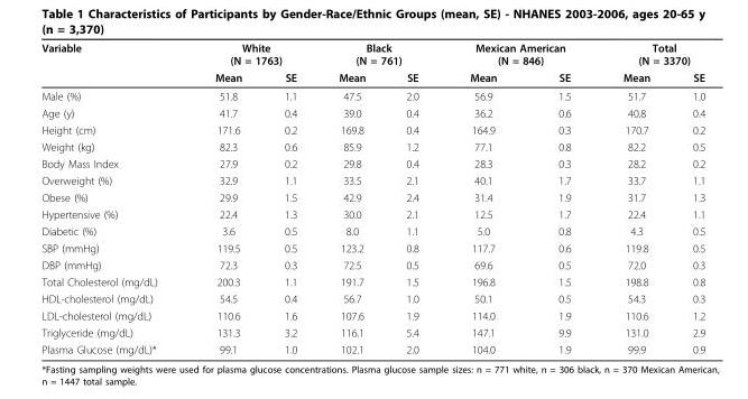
<table><thead><tr><td rowspan="2">Variable</td><td colspan="2">White (N = 1763)</td><td colspan="2">Black (N = 761)</td><td colspan="2">Mexican American (N = 846)</td><td colspan="2">Total (N = 3370)</td></tr><tr><td>Mean</td><td>SE</td><td>Mean</td><td>SE</td><td>Mean</td><td>SE</td><td>Mean</td><td>SE</td></tr></thead><tbody><tr><td>Male (%)</td><td>51.8</td><td>1.1</td><td>47.5</td><td>2.0</td><td>56.9</td><td>1.5</td><td>51.7</td><td>1.0</td></tr><tr><td>Age (y)</td><td>41.7</td><td>0.4</td><td>39.0</td><td>0.4</td><td>36.2</td><td>0.6</td><td>40.8</td><td>0.4</td></tr><tr><td>Height (cm)</td><td>171.6</td><td>0.2</td><td>169.8</td><td>0.4</td><td>164.9</td><td>0.3</td><td>170.7</td><td>0.2</td></tr><tr><td>Weight (kg)</td><td>82.3</td><td>0.6</td><td>85.9</td><td>1.2</td><td>77.1</td><td>0.8</td><td>82.2</td><td>0.5</td></tr><tr><td>Body Mass Index</td><td>27.9</td><td>0.2</td><td>29.8</td><td>0.4</td><td>28.3</td><td>0.3</td><td>28.2</td><td>0.2</td></tr><tr><td>Overweight (%)</td><td>32.9</td><td>1.1</td><td>33.5</td><td>2.1</td><td>40.1</td><td>1.7</td><td>33.7</td><td>1.1</td></tr><tr><td>Obese (%)</td><td>29.9</td><td>1.5</td><td>42.9</td><td>2.4</td><td>31.4</td><td>1.9</td><td>31.7</td><td>1.3</td></tr><tr><td>Hypertensive (%)</td><td>22.4</td><td>1.3</td><td>30.0</td><td>2.1</td><td>12.5</td><td>1.7</td><td>22.4</td><td>1.1</td></tr><tr><td>Diabetic (%)</td><td>3.6</td><td>0.5</td><td>8.0</td><td>1.1</td><td>5.0</td><td>0.8</td><td>4.3</td><td>0.5</td></tr><tr><td>SBP (mmHg)</td><td>119.5</td><td>0.5</td><td>123.2</td><td>0.8</td><td>117.7</td><td>0.6</td><td>119.8</td><td>0.5</td></tr><tr><td>DBP (mmHg)</td><td>72.3</td><td>0.3</td><td>72.5</td><td>0.5</td><td>69.6</td><td>0.5</td><td>72.0</td><td>0.3</td></tr><tr><td>Total Cholesterol (mg/dL)</td><td>200.3</td><td>1.1</td><td>191.7</td><td>1.5</td><td>196.8</td><td>1.5</td><td>198.8</td><td>0.8</td></tr><tr><td>HDL-cholesterol (mg/dL)</td><td>54.5</td><td>0.4</td><td>56.7</td><td>1.0</td><td>50.1</td><td>0.5</td><td>54.3</td><td>0.3</td></tr><tr><td>LDL-cholesterol (mg/dL)</td><td>110.6</td><td>1.6</td><td>107.6</td><td>1.9</td><td>114.0</td><td>1.9</td><td>110.6</td><td>1.2</td></tr><tr><td>Triglyceride (mg/dL)</td><td>131.3</td><td>3.2</td><td>116.1</td><td>5.4</td><td>147.1</td><td>9.9</td><td>131.0</td><td>2.9</td></tr><tr><td>Plasma Glucose (mg/dL)*</td><td>99.1</td><td>1.0</td><td>102.1</td><td>2.0</td><td>104.0</td><td>1.9</td><td>99.9</td><td>0.9</td></tr></tbody></table>